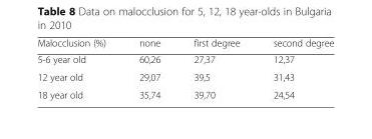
<table><thead><tr><td>Malocclusion (%)</td><td>none</td><td>first degree</td><td>second degree</td></tr></thead><tbody><tr><td>5-6 year old</td><td>60,26</td><td>27,37</td><td>12,37</td></tr><tr><td>12 year old</td><td>29,07</td><td>39,5</td><td>31,43</td></tr><tr><td>18 year old</td><td>35,74</td><td>39,70</td><td>24,54</td></tr></tbody></table>